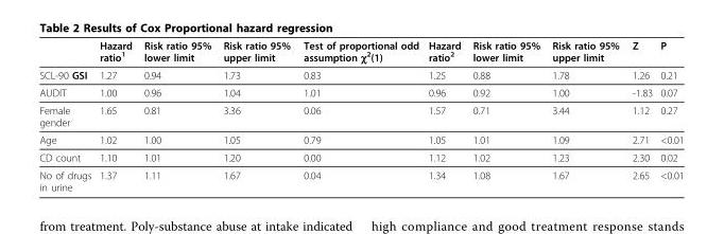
<table><thead><tr><td></td><td>Hazard ratio<sup>1</sup></td><td>Risk ratio 95% lower limit</td><td>Risk ratio 95% upper limit</td><td>Test of proportional odd assumption χ<sup>2</sup>(1)</td><td>Hazard ratio<sup>2</sup></td><td>Risk ratio 95% lower limit</td><td>Risk ratio 95% upper limit</td><td>Z</td><td>P</td></tr></thead><tbody><tr><td>SCL-90 GSI</td><td>1.27</td><td>0.94</td><td>1.73</td><td>0.83</td><td>1.25</td><td>0.88</td><td>1.78</td><td>1.26</td><td>0.21</td></tr><tr><td>AUDIT</td><td>1.00</td><td>0.96</td><td>1.04</td><td>1.01</td><td>0.96</td><td>0.92</td><td>1.00</td><td>-1.83</td><td>0.07</td></tr><tr><td>Female gender</td><td>1.65</td><td>0.81</td><td>3.36</td><td>0.06</td><td>1.57</td><td>0.71</td><td>3.44</td><td>1.12</td><td>0.27</td></tr><tr><td>Age</td><td>1.02</td><td>1.00</td><td>1.05</td><td>0.79</td><td>1.05</td><td>1.01</td><td>1.09</td><td>2.71</td><td>&lt;0.01</td></tr><tr><td>CD count</td><td>1.10</td><td>1.01</td><td>1.20</td><td>0.00</td><td>1.12</td><td>1.02</td><td>1.23</td><td>2.30</td><td>0.02</td></tr><tr><td>No of drugs in urine</td><td>1.37</td><td>1.11</td><td>1.67</td><td>0.04</td><td>1.34</td><td>1.08</td><td>1.67</td><td>2.65</td><td>&lt;0.01</td></tr></tbody></table>